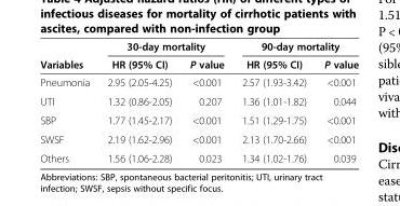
<table><thead><tr><td rowspan="2">Variables</td><td colspan="2">30-day mortality</td><td colspan="2">90-day mortality</td></tr><tr><td>HR (95% CI)</td><td>P value</td><td>HR (95% CI)</td><td>P value</td></tr></thead><tbody><tr><td>Pneumonia</td><td>2.95 (2.05-4.25)</td><td>&lt;0.001</td><td>2.57 (1.93-3.42)</td><td>&lt;0.001</td></tr><tr><td>UTI</td><td>1.32 (0.86-2.05)</td><td>0.207</td><td>1.36 (1.01-1.82)</td><td>0.044</td></tr><tr><td>SBP</td><td>1.77 (1.45-2.17)</td><td>&lt;0.001</td><td>1.51 (1.29-1.75)</td><td>&lt;0.001</td></tr><tr><td>SWSF</td><td>2.19 (1.62-2.96)</td><td>&lt;0.001</td><td>2.13 (1.70-2.66)</td><td>&lt;0.001</td></tr><tr><td>Others</td><td>1.56 (1.06-2.28)</td><td>0.023</td><td>1.34 (1.02-1.76)</td><td>0.039</td></tr></tbody></table>